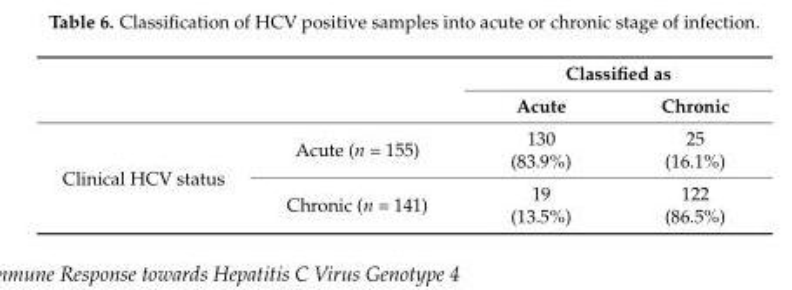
<table><thead><tr><td rowspan="2"></td><td rowspan="2"></td><td colspan="2">Classified as</td></tr><tr><td>Acute</td><td>Chronic</td></tr></thead><tbody><tr><td rowspan="2">Clinical HCV status</td><td>Acute (n = 155)</td><td>130 (83.9%)</td><td>25 (16.1%)</td></tr><tr><td>Chronic (n = 141)</td><td>19 (13.5%)</td><td>122 (86.5%)</td></tr></tbody></table>